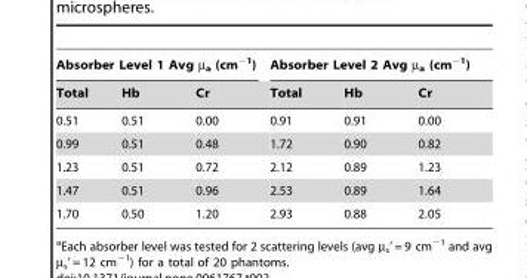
<table><thead><tr><td colspan="3">Absorber Level 1 Avg µ<sub>a</sub> (cm<sup>−1</sup>)</td><td colspan="3">Absorber Level 2 Avg µ<sub>a</sub> (cm<sup>−1</sup>)</td></tr><tr><td>Total</td><td>Hb</td><td>Cr</td><td>Total</td><td>Hb</td><td>Cr</td></tr></thead><tbody><tr><td>0.51</td><td>0.51</td><td>0.00</td><td>0.91</td><td>0.91</td><td>0.00</td></tr><tr><td>0.99</td><td>0.51</td><td>0.48</td><td>1.72</td><td>0.90</td><td>0.82</td></tr><tr><td>1.23</td><td>0.51</td><td>0.72</td><td>2.12</td><td>0.89</td><td>1.23</td></tr><tr><td>1.47</td><td>0.51</td><td>0.96</td><td>2.53</td><td>0.89</td><td>1.64</td></tr><tr><td>1.70</td><td>0.50</td><td>1.20</td><td>2.93</td><td>0.88</td><td>2.05</td></tr></tbody></table>